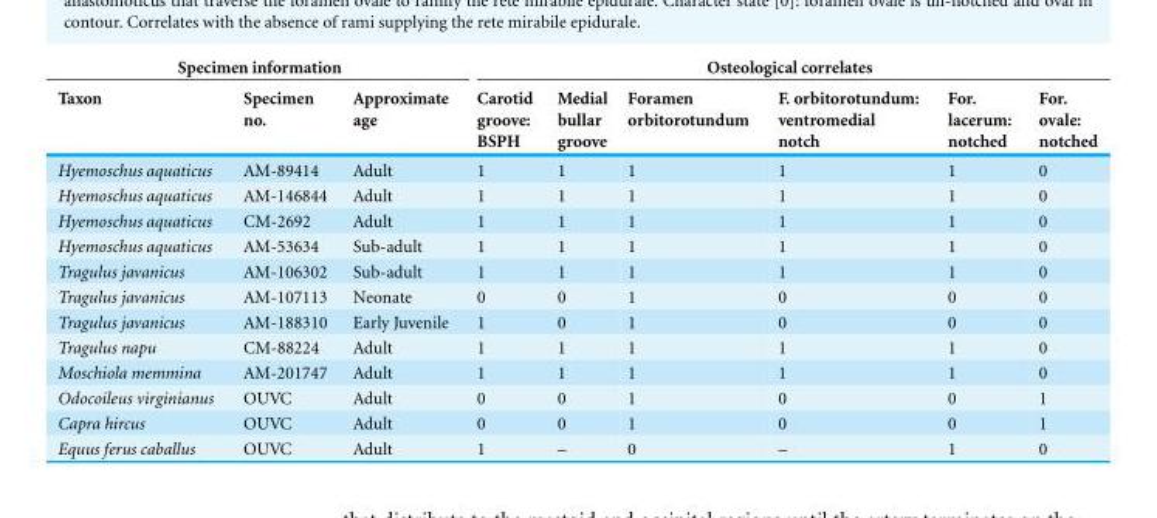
<table><thead><tr><td colspan="3">Specimen information</td><td colspan="6">Osteological correlates</td></tr><tr><td>Taxon</td><td>Specimen no.</td><td>Approximate age</td><td>Carotid groove: BSPH</td><td>Medial bullar groove</td><td>Foramen orbitorotundum</td><td>F. orbitorotundum: ventromedial notch</td><td>For. lacerum: notched</td><td>For. ovale: notched</td></tr></thead><tbody><tr><td>Hyemoschus aquaticus</td><td>AM-89414</td><td>Adult</td><td>1</td><td>1</td><td>1</td><td>1</td><td>1</td><td>0</td></tr><tr><td>Hyemoschus aquaticus</td><td>AM-146844</td><td>Adult</td><td>1</td><td>1</td><td>1</td><td>1</td><td>1</td><td>0</td></tr><tr><td>Hyemoschus aquaticus</td><td>CM-2692</td><td>Adult</td><td>1</td><td>1</td><td>1</td><td>1</td><td>1</td><td>0</td></tr><tr><td>Hyemoschus aquaticus</td><td>AM-53634</td><td>Sub-adult</td><td>1</td><td>1</td><td>1</td><td>1</td><td>1</td><td>0</td></tr><tr><td>Tragulus javanicus</td><td>AM-106302</td><td>Sub-adult</td><td>1</td><td>1</td><td>1</td><td>1</td><td>1</td><td>0</td></tr><tr><td>Tragulus javanicus</td><td>AM-107113</td><td>Neonate</td><td>0</td><td>0</td><td>1</td><td>0</td><td>0</td><td>0</td></tr><tr><td>Tragulus javanicus</td><td>AM-188310</td><td>Early Juvenile</td><td>1</td><td>0</td><td>1</td><td>0</td><td>0</td><td>0</td></tr><tr><td>Tragulus napu</td><td>CM-88224</td><td>Adult</td><td>1</td><td>1</td><td>1</td><td>1</td><td>1</td><td>0</td></tr><tr><td>Moschiola memmina</td><td>AM-201747</td><td>Adult</td><td>1</td><td>1</td><td>1</td><td>1</td><td>1</td><td>0</td></tr><tr><td>Odocoileus virginianus</td><td>OUVC</td><td>Adult</td><td>0</td><td>0</td><td>1</td><td>0</td><td>0</td><td>1</td></tr><tr><td>Capra hircus</td><td>OUVC</td><td>Adult</td><td>0</td><td>0</td><td>1</td><td>0</td><td>0</td><td>1</td></tr><tr><td>Equus ferus caballus</td><td>OUVC</td><td>Adult</td><td>1</td><td>–</td><td>0</td><td>–</td><td>1</td><td>0</td></tr></tbody></table>